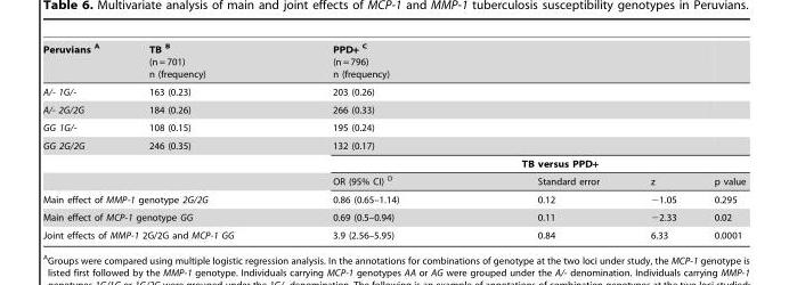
<table><tbody><tr><td>Peruvians A</td><td>TB B (n = 701) n (frequency)</td><td>PPD+ C (n = 796) n (frequency)</td><td></td><td></td><td></td></tr><tr><td>A/- 1G/-</td><td>163 (0.23)</td><td>203 (0.26)</td><td></td><td></td><td></td></tr><tr><td>A/- 2G/2G</td><td>184 (0.26)</td><td>266 (0.33)</td><td></td><td></td><td></td></tr><tr><td>GG 1G/-</td><td>108 (0.15)</td><td>195 (0.24)</td><td></td><td></td><td></td></tr><tr><td rowspan="3">GG 2G/2G</td><td>246 (0.35)</td><td>132 (0.17)</td><td></td><td></td><td></td></tr><tr><td></td><td colspan="4">TB versus PPD+</td></tr><tr><td></td><td>OR (95% CI) D</td><td>Standard error</td><td>z</td><td>p value</td></tr><tr><td colspan="2">Main effect of MMP-1 genotype 2G/2G</td><td>0.86 (0.65–1.14)</td><td>0.12</td><td>−1.05</td><td>0.295</td></tr><tr><td colspan="2">Main effect of MCP-1 genotype GG</td><td>0.69 (0.5–0.94)</td><td>0.11</td><td>−2.33</td><td>0.02</td></tr><tr><td colspan="2">Joint effects of MMP-1 2G/2G and MCP-1 GG</td><td>3.9 (2.56–5.95)</td><td>0.84</td><td>6.33</td><td>0.0001</td></tr></tbody></table>